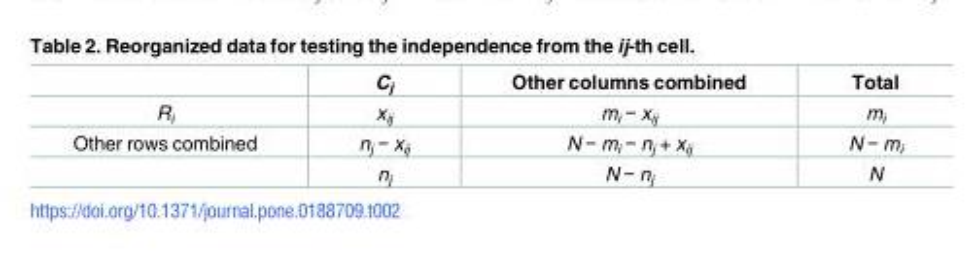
<table><thead><tr><td></td><td>C<sub>j</sub></td><td>Other columns combined</td><td>Total</td></tr></thead><tbody><tr><td>R<sub>i</sub></td><td>x<sub>ij</sub></td><td>m<sub>i</sub> − x<sub>ij</sub></td><td>m<sub>i</sub></td></tr><tr><td rowspan="2">Other rows combined</td><td>n<sub>j</sub> − x<sub>ij</sub></td><td>N − m<sub>i</sub> − n<sub>j</sub> + x<sub>ij</sub></td><td>N − m<sub>i</sub></td></tr><tr><td>n<sub>j</sub></td><td>N − n<sub>j</sub></td><td>N</td></tr></tbody></table>